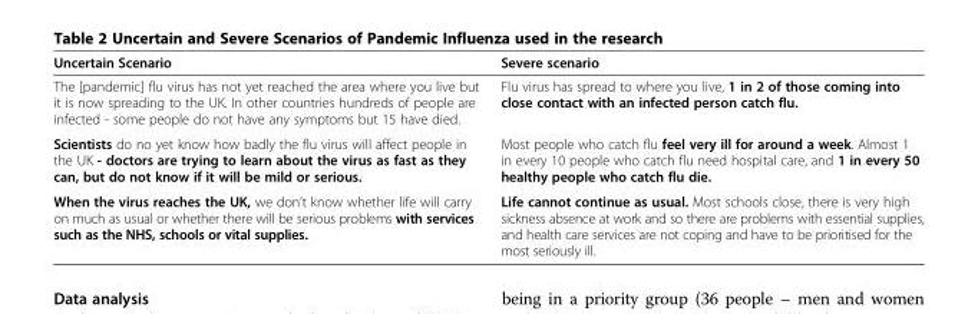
<table><thead><tr><td>Uncertain Scenario</td><td>Severe scenario</td></tr></thead><tbody><tr><td>The [pandemic] flu virus has not yet reached the area where you live but it is now spreading to the UK. In other countries hundreds of people are infected - some people do not have any symptoms but 15 have died.</td><td>Flu virus has spread to where you live, 1 in 2 of those coming into close contact with an infected person catch flu.</td></tr><tr><td>Scientists do no yet know how badly the flu virus will affect people in the UK - doctors are trying to learn about the virus as fast as they can, but do not know if it will be mild or serious.</td><td>Most people who catch flu feel very ill for around a week. Almost 1 in every 10 people who catch flu need hospital care, and 1 in every 50 healthy people who catch flu die.</td></tr><tr><td>When the virus reaches the UK, we don’t know whether life will carry on much as usual or whether there will be serious problems with services such as the NHS, schools or vital supplies.</td><td>Life cannot continue as usual. Most schools close, there is very high sickness absence at work and so there are problems with essential supplies, and health care services are not coping and have to be prioritised for the most seriously ill.</td></tr></tbody></table>